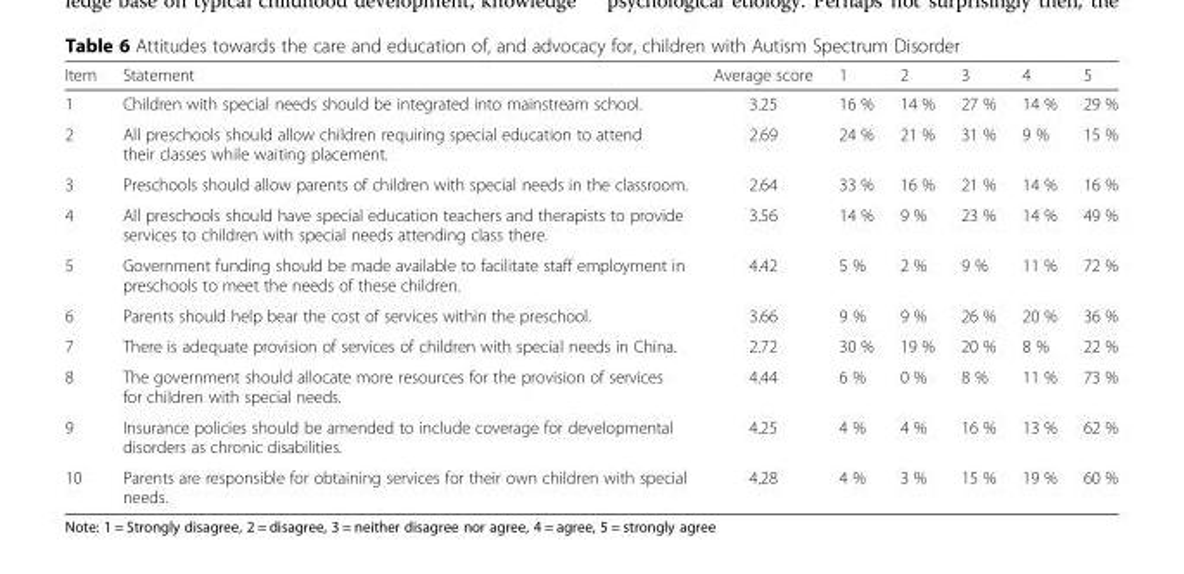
<table><thead><tr><td>Item</td><td>Statement</td><td>Average score</td><td>1</td><td>2</td><td>3</td><td>4</td><td>5</td></tr></thead><tbody><tr><td>1</td><td>Children with special needs should be integrated into mainstream school.</td><td>3.25</td><td>16 %</td><td>14 %</td><td>27 %</td><td>14 %</td><td>29 %</td></tr><tr><td>2</td><td>All preschools should allow children requiring special education to attend their classes while waiting placement.</td><td>2.69</td><td>24 %</td><td>21 %</td><td>31 %</td><td>9 %</td><td>15 %</td></tr><tr><td>3</td><td>Preschools should allow parents of children with special needs in the classroom.</td><td>2.64</td><td>33 %</td><td>16 %</td><td>21 %</td><td>14 %</td><td>16 %</td></tr><tr><td>4</td><td>All preschools should have special education teachers and therapists to provide services to children with special needs attending class there.</td><td>3.56</td><td>14 %</td><td>9 %</td><td>23 %</td><td>14 %</td><td>49 %</td></tr><tr><td>5</td><td>Government funding should be made available to facilitate staff employment in preschools to meet the needs of these children.</td><td>4.42</td><td>5 %</td><td>2 %</td><td>9 %</td><td>11 %</td><td>72 %</td></tr><tr><td>6</td><td>Parents should help bear the cost of services within the preschool.</td><td>3.66</td><td>9 %</td><td>9 %</td><td>26 %</td><td>20 %</td><td>36 %</td></tr><tr><td>7</td><td>There is adequate provision of services of children with special needs in China.</td><td>2.72</td><td>30 %</td><td>19 %</td><td>20 %</td><td>8 %</td><td>22 %</td></tr><tr><td>8</td><td>The government should allocate more resources for the provision of services for children with special needs.</td><td>4.44</td><td>6 %</td><td>0 %</td><td>8 %</td><td>11 %</td><td>73 %</td></tr><tr><td>9</td><td>Insurance policies should be amended to include coverage for developmental disorders as chronic disabilities.</td><td>4.25</td><td>4 %</td><td>4 %</td><td>16 %</td><td>13 %</td><td>62 %</td></tr><tr><td>10</td><td>Parents are responsible for obtaining services for their own children with special needs.</td><td>4.28</td><td>4 %</td><td>3 %</td><td>15 %</td><td>19 %</td><td>60 %</td></tr></tbody></table>